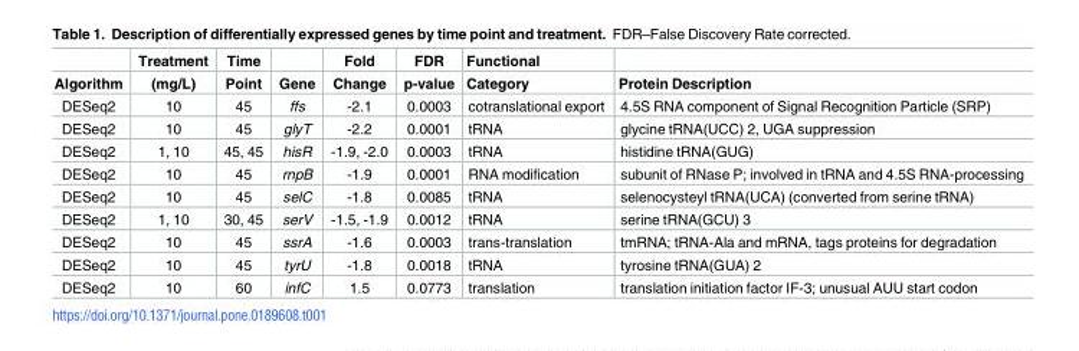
<table><thead><tr><td rowspan="2">Algorithm</td><td rowspan="2">Treatment (mg/L)</td><td rowspan="2">Time Point</td><td rowspan="2">Gene</td><td rowspan="2">Fold Change</td><td rowspan="2">FDR p-value</td><td rowspan="2">Functional Category</td><td rowspan="2">Protein Description</td></tr><tr></tr></thead><tbody><tr><td>DESeq2</td><td>10</td><td>45</td><td>ffs</td><td>-2.1</td><td>0.0003</td><td>cotranslational export</td><td>4.5S RNA component of Signal Recognition Particle (SRP)</td></tr><tr><td>DESeq2</td><td>10</td><td>45</td><td>glyT</td><td>-2.2</td><td>0.0001</td><td>tRNA</td><td>glycine tRNA(UCC) 2, UGA suppression</td></tr><tr><td>DESeq2</td><td>1, 10</td><td>45, 45</td><td>hisR</td><td>-1.9, -2.0</td><td>0.0003</td><td>tRNA</td><td>histidine tRNA(GUG)</td></tr><tr><td>DESeq2</td><td>10</td><td>45</td><td>rnpB</td><td>-1.9</td><td>0.0001</td><td>RNA modification</td><td>subunit of RNase P; involved in tRNA and 4.5S RNA-processing</td></tr><tr><td>DESeq2</td><td>10</td><td>45</td><td>selC</td><td>-1.8</td><td>0.0085</td><td>tRNA</td><td>selenocysteyl tRNA(UCA) (converted from serine tRNA)</td></tr><tr><td>DESeq2</td><td>1, 10</td><td>30, 45</td><td>serV</td><td>-1.5, -1.9</td><td>0.0012</td><td>tRNA</td><td>serine tRNA(GCU) 3</td></tr><tr><td>DESeq2</td><td>10</td><td>45</td><td>ssrA</td><td>-1.6</td><td>0.0003</td><td>trans-translation</td><td>tmRNA; tRNA-Ala and mRNA, tags proteins for degradation</td></tr><tr><td>DESeq2</td><td>10</td><td>45</td><td>tyrU</td><td>-1.8</td><td>0.0018</td><td>tRNA</td><td>tyrosine tRNA(GUA) 2</td></tr><tr><td>DESeq2</td><td>10</td><td>60</td><td>infC</td><td>1.5</td><td>0.0773</td><td>translation</td><td>translation initiation factor IF-3; unusual AUU start codon</td></tr></tbody></table>